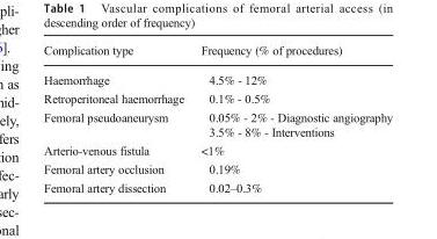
<table><thead><tr><td>Complication type</td><td>Frequency (% of procedures)</td></tr></thead><tbody><tr><td>Haemorrhage</td><td>4.5% - 12%</td></tr><tr><td>Retroperitoneal haemorrhage</td><td>0.1% - 0.5%</td></tr><tr><td>Femoral pseudoaneurysm</td><td>0.05% - 2% - Diagnostic angiography 3.5% - 8% - Interventions</td></tr><tr><td>Arterio-venous fistula</td><td>&lt;1%</td></tr><tr><td>Femoral artery occlusion</td><td>0.19%</td></tr><tr><td>Femoral artery dissection</td><td>0.02–0.3%</td></tr></tbody></table>